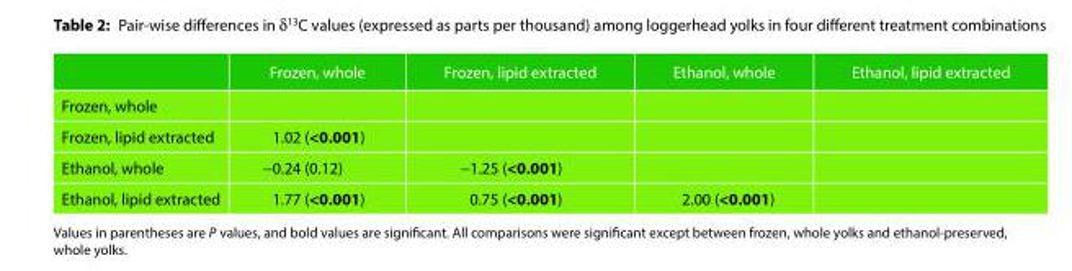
<table><thead><tr><td></td><td>Frozen, whole</td><td>Frozen, lipid extracted</td><td>Ethanol, whole</td><td>Ethanol, lipid extracted</td></tr></thead><tbody><tr><td colspan="5">Frozen, whole</td></tr><tr><td>Frozen, lipid extracted</td><td>1.02 (&lt;0.001)</td><td></td><td></td><td></td></tr><tr><td>Ethanol, whole</td><td>−0.24 (0.12)</td><td>−1.25 (&lt;0.001)</td><td></td><td></td></tr><tr><td>Ethanol, lipid extracted</td><td>1.77 (&lt;0.001)</td><td>0.75 (&lt;0.001)</td><td>2.00 (&lt;0.001)</td><td></td></tr></tbody></table>